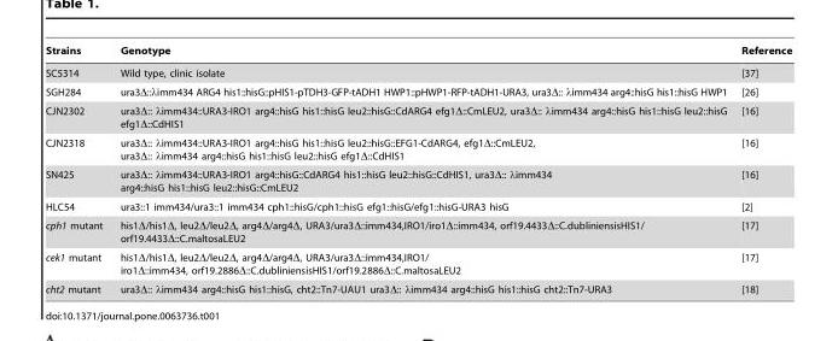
<table><thead><tr><td>Strains</td><td>Genotype</td><td>Reference</td></tr></thead><tbody><tr><td>SC5314</td><td>Wild type, clinic isolate</td><td>[37]</td></tr><tr><td>SGH284</td><td>ura3Δ::λimm434 ARG4 his1::hisG::pHIS1-pTDH3-GFP-tADH1 HWP1::pHWP1-RFP-tADH1-URA3, ura3Δ:: λimm434 arg4::hisG his1::hisG HWP1</td><td>[26]</td></tr><tr><td>CJN2302</td><td>ura3Δ:: λimm434::URA3-IRO1 arg4::hisG his1::hisG leu2::hisG::CdARG4 efg1Δ::CmLEU2, ura3Δ:: λimm434 arg4::hisG his1::hisG leu2::hisG efg1Δ::CdHIS1</td><td>[16]</td></tr><tr><td>CJN2318</td><td>ura3Δ:: λimm434::URA3-IRO1 arg4::hisG his1::hisG leu2::hisG::EFG1-CdARG4, efg1Δ::CmLEU2, ura3Δ:: λimm434 arg4::hisG his1::hisG leu2::hisG efg1Δ::CdHIS1</td><td>[16]</td></tr><tr><td>SN425</td><td>ura3Δ:: λimm434::URA3-IRO1 arg4::hisG::CdARG4 his1::hisG leu2::hisG::CdHIS1, ura3Δ:: λimm434 arg4::hisG his1::hisG leu2::hisG::CmLEU2</td><td>[16]</td></tr><tr><td>HLC54</td><td>ura3::1 imm434/ura3::1 imm434 cph1::hisG/cph1::hisG efg1::hisG/efg1::hisG-URA3 hisG</td><td>[2]</td></tr><tr><td>cph1 mutant</td><td>his1Δ/his1Δ, leu2Δ/leu2Δ, arg4Δ/arg4Δ, URA3/ura3Δ::imm434,IRO1/iro1Δ::imm434, orf19.4433Δ::C.dubliniensisHIS1/ orf19.4433Δ::C.maltosaLEU2</td><td>[17]</td></tr><tr><td>cek1 mutant</td><td>his1Δ/his1Δ, leu2Δ/leu2Δ, arg4Δ/arg4Δ, URA3/ura3Δ::imm434,IRO1/ iro1Δ::imm434, orf19.2886Δ::C.dubliniensisHIS1/orf19.2886Δ::C.maltosaLEU2</td><td>[17]</td></tr><tr><td>cht2 mutant</td><td>ura3Δ:: λimm434 arg4::hisG his1::hisG, cht2::Tn7-UAU1 ura3Δ:: λimm434 arg4::hisG his1::hisG cht2::Tn7-URA3</td><td>[18]</td></tr></tbody></table>